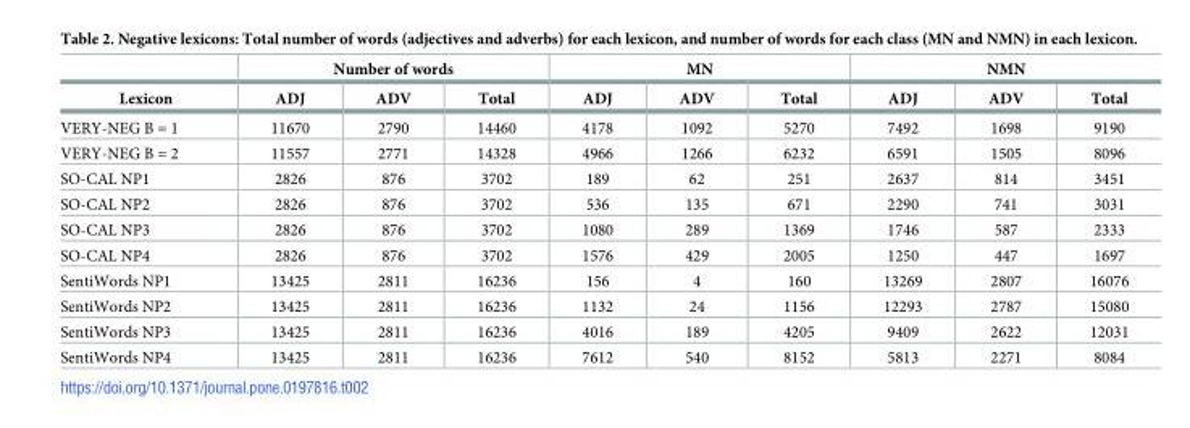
<table><thead><tr><td rowspan="2">Lexicon</td><td colspan="3">Number of words</td><td colspan="3">MN</td><td colspan="3">NMN</td></tr><tr><td>ADJ</td><td>ADV</td><td>Total</td><td>ADJ</td><td>ADV</td><td>Total</td><td>ADJ</td><td>ADV</td><td>Total</td></tr></thead><tbody><tr><td>VERY-NEG B = 1</td><td>11670</td><td>2790</td><td>14460</td><td>4178</td><td>1092</td><td>5270</td><td>7492</td><td>1698</td><td>9190</td></tr><tr><td>VERY-NEG B = 2</td><td>11557</td><td>2771</td><td>14328</td><td>4966</td><td>1266</td><td>6232</td><td>6591</td><td>1505</td><td>8096</td></tr><tr><td>SO-CAL NP1</td><td>2826</td><td>876</td><td>3702</td><td>189</td><td>62</td><td>251</td><td>2637</td><td>814</td><td>3451</td></tr><tr><td>SO-CAL NP2</td><td>2826</td><td>876</td><td>3702</td><td>536</td><td>135</td><td>671</td><td>2290</td><td>741</td><td>3031</td></tr><tr><td>SO-CAL NP3</td><td>2826</td><td>876</td><td>3702</td><td>1080</td><td>289</td><td>1369</td><td>1746</td><td>587</td><td>2333</td></tr><tr><td>SO-CAL NP4</td><td>2826</td><td>876</td><td>3702</td><td>1576</td><td>429</td><td>2005</td><td>1250</td><td>447</td><td>1697</td></tr><tr><td>SentiWords NP1</td><td>13425</td><td>2811</td><td>16236</td><td>156</td><td>4</td><td>160</td><td>13269</td><td>2807</td><td>16076</td></tr><tr><td>SentiWords NP2</td><td>13425</td><td>2811</td><td>16236</td><td>1132</td><td>24</td><td>1156</td><td>12293</td><td>2787</td><td>15080</td></tr><tr><td>SentiWords NP3</td><td>13425</td><td>2811</td><td>16236</td><td>4016</td><td>189</td><td>4205</td><td>9409</td><td>2622</td><td>12031</td></tr><tr><td>SentiWords NP4</td><td>13425</td><td>2811</td><td>16236</td><td>7612</td><td>540</td><td>8152</td><td>5813</td><td>2271</td><td>8084</td></tr></tbody></table>